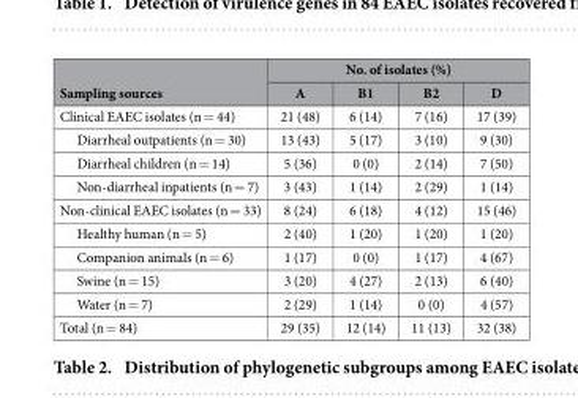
<table><thead><tr><td rowspan="2">Sampling sources</td><td colspan="4">No. of isolates (%)</td></tr><tr><td>A</td><td>B1</td><td>B2</td><td>D</td></tr></thead><tbody><tr><td>Clinical EAEC isolates (n = 44)</td><td>21 (48)</td><td>6 (14)</td><td>7 (16)</td><td>17 (39)</td></tr><tr><td>Diarrheal outpatients (n = 30)</td><td>13 (43)</td><td>5 (17)</td><td>3 (10)</td><td>9 (30)</td></tr><tr><td>Diarrheal children (n = 14)</td><td>5 (36)</td><td>0 (0)</td><td>2 (14)</td><td>7 (50)</td></tr><tr><td>Non-diarrheal inpatients (n = 7)</td><td>3 (43)</td><td>1 (14)</td><td>2 (29)</td><td>1 (14)</td></tr><tr><td>Non-clinical EAEC isolates (n = 33)</td><td>8 (24)</td><td>6 (18)</td><td>4 (12)</td><td>15 (46)</td></tr><tr><td>Healthy human (n = 5)</td><td>2 (40)</td><td>1 (20)</td><td>1 (20)</td><td>1 (20)</td></tr><tr><td>Companion animals (n = 6)</td><td>1 (17)</td><td>0 (0)</td><td>1 (17)</td><td>4 (67)</td></tr><tr><td>Swine (n = 15)</td><td>3 (20)</td><td>4 (27)</td><td>2 (13)</td><td>6 (40)</td></tr><tr><td>Water (n = 7)</td><td>2 (29)</td><td>1 (14)</td><td>0 (0)</td><td>4 (57)</td></tr><tr><td>Total (n = 84)</td><td>29 (35)</td><td>12 (14)</td><td>11 (13)</td><td>32 (38)</td></tr></tbody></table>